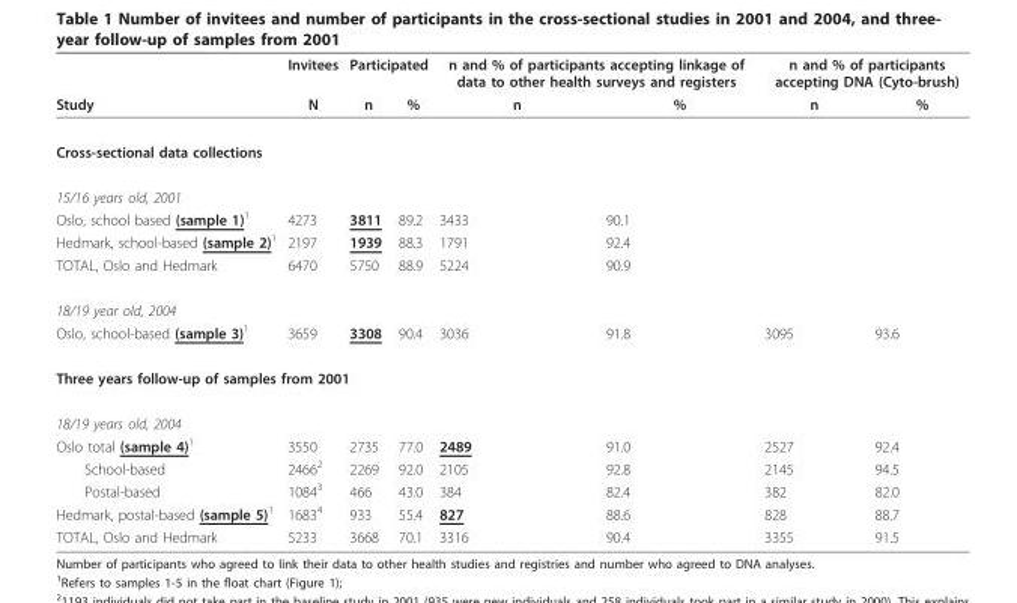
<table><thead><tr><td rowspan="2">Study</td><td rowspan="2">Invitees N</td><td colspan="2">Participated</td><td colspan="2">n and % of participants accepting linkage of data to other health surveys and registers</td><td colspan="2">n and % of participants accepting DNA (Cyto-brush)</td></tr><tr><td>n</td><td>%</td><td>n</td><td>%</td><td>n</td><td>%</td></tr></thead><tbody><tr><td colspan="8">Cross-sectional data collections</td></tr><tr><td colspan="8">15/16 years old, 2001</td></tr><tr><td>Oslo, school based (sample 1)<sup>1</sup></td><td>4273</td><td>3811</td><td>89.2</td><td>3433</td><td>90.1</td><td></td><td></td></tr><tr><td>Hedmark, school-based (sample 2)<sup>1</sup></td><td>2197</td><td>1939</td><td>88.3</td><td>1791</td><td>92.4</td><td></td><td></td></tr><tr><td>TOTAL, Oslo and Hedmark</td><td>6470</td><td>5750</td><td>88.9</td><td>5224</td><td>90.9</td><td></td><td></td></tr><tr><td colspan="8">18/19 year old, 2004</td></tr><tr><td>Oslo, school-based (sample 3)<sup>1</sup></td><td>3659</td><td>3308</td><td>90.4</td><td>3036</td><td>91.8</td><td>3095</td><td>93.6</td></tr><tr><td colspan="8">Three years follow-up of samples from 2001</td></tr><tr><td colspan="8">18/19 years old, 2004</td></tr><tr><td>Oslo total (sample 4)<sup>1</sup></td><td>3550</td><td>2735</td><td>77.0</td><td>2489</td><td>91.0</td><td>2527</td><td>92.4</td></tr><tr><td>School-based</td><td>2466<sup>2</sup></td><td>2269</td><td>92.0</td><td>2105</td><td>92.8</td><td>2145</td><td>94.5</td></tr><tr><td>Postal-based</td><td>1084<sup>3</sup></td><td>466</td><td>43.0</td><td>384</td><td>82.4</td><td>382</td><td>82.0</td></tr><tr><td>Hedmark, postal-based (sample 5)<sup>1</sup></td><td>1683<sup>4</sup></td><td>933</td><td>55.4</td><td>827</td><td>88.6</td><td>828</td><td>88.7</td></tr><tr><td>TOTAL, Oslo and Hedmark</td><td>5233</td><td>3668</td><td>70.1</td><td>3316</td><td>90.4</td><td>3355</td><td>91.5</td></tr></tbody></table>